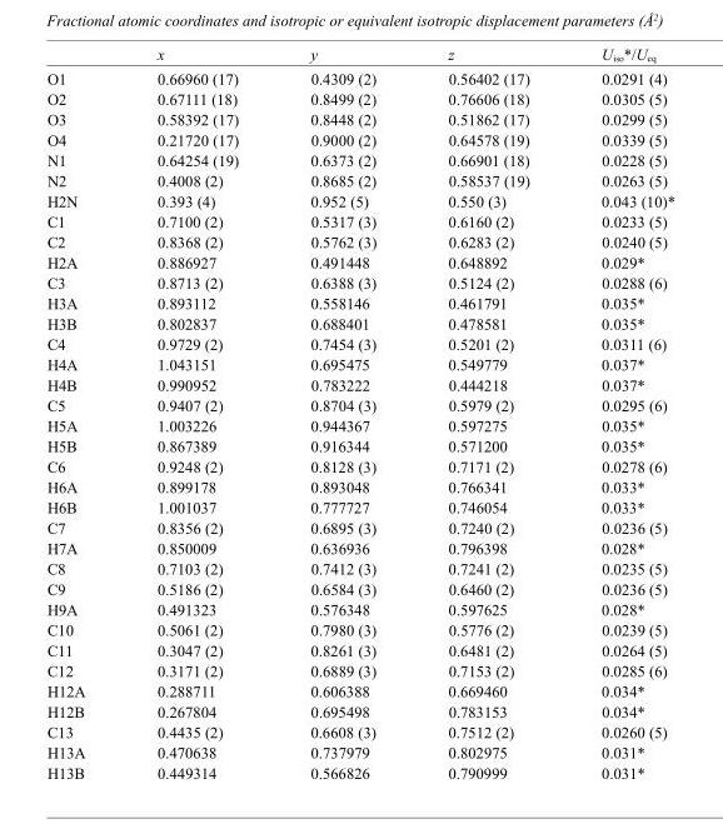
<table><thead><tr><td></td><td>x</td><td>y</td><td>z</td><td>U<sub>iso</sub>*/U<sub>eq</sub></td></tr></thead><tbody><tr><td>O1</td><td>0.66960 (17)</td><td>0.4309 (2)</td><td>0.56402 (17)</td><td>0.0291 (4)</td></tr><tr><td>O2</td><td>0.67111 (18)</td><td>0.8499 (2)</td><td>0.76606 (18)</td><td>0.0305 (5)</td></tr><tr><td>O3</td><td>0.58392 (17)</td><td>0.8448 (2)</td><td>0.51862 (17)</td><td>0.0299 (5)</td></tr><tr><td>O4</td><td>0.21720 (17)</td><td>0.9000 (2)</td><td>0.64578 (19)</td><td>0.0339 (5)</td></tr><tr><td>N1</td><td>0.64254 (19)</td><td>0.6373 (2)</td><td>0.66901 (18)</td><td>0.0228 (5)</td></tr><tr><td>N2</td><td>0.4008 (2)</td><td>0.8685 (2)</td><td>0.58537 (19)</td><td>0.0263 (5)</td></tr><tr><td>H2N</td><td>0.393 (4)</td><td>0.952 (5)</td><td>0.550 (3)</td><td>0.043 (10)*</td></tr><tr><td>C1</td><td>0.7100 (2)</td><td>0.5317 (3)</td><td>0.6160 (2)</td><td>0.0233 (5)</td></tr><tr><td>C2</td><td>0.8368 (2)</td><td>0.5762 (3)</td><td>0.6283 (2)</td><td>0.0240 (5)</td></tr><tr><td>H2A</td><td>0.886927</td><td>0.491448</td><td>0.648892</td><td>0.029*</td></tr><tr><td>C3</td><td>0.8713 (2)</td><td>0.6388 (3)</td><td>0.5124 (2)</td><td>0.0288 (6)</td></tr><tr><td>H3A</td><td>0.893112</td><td>0.558146</td><td>0.461791</td><td>0.035*</td></tr><tr><td>H3B</td><td>0.802837</td><td>0.688401</td><td>0.478581</td><td>0.035*</td></tr><tr><td>C4</td><td>0.9729 (2)</td><td>0.7454 (3)</td><td>0.5201 (2)</td><td>0.0311 (6)</td></tr><tr><td>H4A</td><td>1.043151</td><td>0.695475</td><td>0.549779</td><td>0.037*</td></tr><tr><td>H4B</td><td>0.990952</td><td>0.783222</td><td>0.444218</td><td>0.037*</td></tr><tr><td>C5</td><td>0.9407 (2)</td><td>0.8704 (3)</td><td>0.5979 (2)</td><td>0.0295 (6)</td></tr><tr><td>H5A</td><td>1.003226</td><td>0.944367</td><td>0.597275</td><td>0.035*</td></tr><tr><td>H5B</td><td>0.867389</td><td>0.916344</td><td>0.571200</td><td>0.035*</td></tr><tr><td>C6</td><td>0.9248 (2)</td><td>0.8128 (3)</td><td>0.7171 (2)</td><td>0.0278 (6)</td></tr><tr><td>H6A</td><td>0.899178</td><td>0.893048</td><td>0.766341</td><td>0.033*</td></tr><tr><td>H6B</td><td>1.001037</td><td>0.777727</td><td>0.746054</td><td>0.033*</td></tr><tr><td>C7</td><td>0.8356 (2)</td><td>0.6895 (3)</td><td>0.7240 (2)</td><td>0.0236 (5)</td></tr><tr><td>H7A</td><td>0.850009</td><td>0.636936</td><td>0.796398</td><td>0.028*</td></tr><tr><td>C8</td><td>0.7103 (2)</td><td>0.7412 (3)</td><td>0.7241 (2)</td><td>0.0235 (5)</td></tr><tr><td>C9</td><td>0.5186 (2)</td><td>0.6584 (3)</td><td>0.6460 (2)</td><td>0.0236 (5)</td></tr><tr><td>H9A</td><td>0.491323</td><td>0.576348</td><td>0.597625</td><td>0.028*</td></tr><tr><td>C10</td><td>0.5061 (2)</td><td>0.7980 (3)</td><td>0.5776 (2)</td><td>0.0239 (5)</td></tr><tr><td>C11</td><td>0.3047 (2)</td><td>0.8261 (3)</td><td>0.6481 (2)</td><td>0.0264 (5)</td></tr><tr><td>C12</td><td>0.3171 (2)</td><td>0.6889 (3)</td><td>0.7153 (2)</td><td>0.0285 (6)</td></tr><tr><td>H12A</td><td>0.288711</td><td>0.606388</td><td>0.669460</td><td>0.034*</td></tr><tr><td>H12B</td><td>0.267804</td><td>0.695498</td><td>0.783153</td><td>0.034*</td></tr><tr><td>C13</td><td>0.4435 (2)</td><td>0.6608 (3)</td><td>0.7512 (2)</td><td>0.0260 (5)</td></tr><tr><td>H13A</td><td>0.470638</td><td>0.737979</td><td>0.802975</td><td>0.031*</td></tr><tr><td>H13B</td><td>0.449314</td><td>0.566826</td><td>0.790999</td><td>0.031*</td></tr></tbody></table>